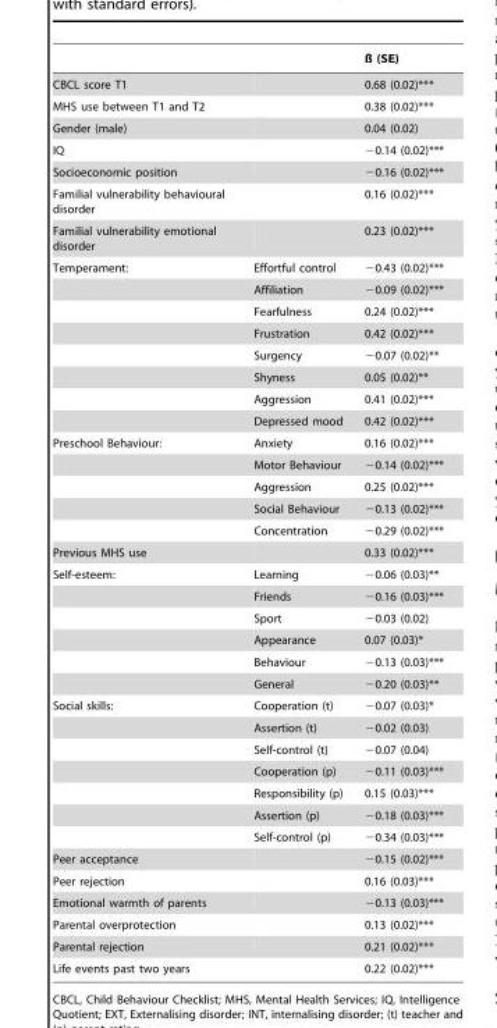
<table><thead><tr><td></td><td></td><td>ß (SE)</td></tr></thead><tbody><tr><td>CBCL score T1</td><td></td><td>0.68 (0.02)***</td></tr><tr><td>MHS use between T1 and T2</td><td></td><td>0.38 (0.02)***</td></tr><tr><td>Gender (male)</td><td></td><td>0.04 (0.02)</td></tr><tr><td>IQ</td><td></td><td>−0.14 (0.02)***</td></tr><tr><td>Socioeconomic position</td><td></td><td>−0.16 (0.02)***</td></tr><tr><td>Familial vulnerability behavioural disorder</td><td></td><td>0.16 (0.02)***</td></tr><tr><td>Familial vulnerability emotional disorder</td><td></td><td>0.23 (0.02)***</td></tr><tr><td rowspan="8">Temperament:</td><td>Effortful control</td><td>−0.43 (0.02)***</td></tr><tr><td>Affiliation</td><td>−0.09 (0.02)***</td></tr><tr><td>Fearfulness</td><td>0.24 (0.02)***</td></tr><tr><td>Frustration</td><td>0.42 (0.02)***</td></tr><tr><td>Surgency</td><td>−0.07 (0.02)**</td></tr><tr><td>Shyness</td><td>0.05 (0.02)**</td></tr><tr><td>Aggression</td><td>0.41 (0.02)***</td></tr><tr><td>Depressed mood</td><td>0.42 (0.02)***</td></tr><tr><td rowspan="5">Preschool Behaviour:</td><td>Anxiety</td><td>0.16 (0.02)***</td></tr><tr><td>Motor Behaviour</td><td>−0.14 (0.02)***</td></tr><tr><td>Aggression</td><td>0.25 (0.02)***</td></tr><tr><td>Social Behaviour</td><td>−0.13 (0.02)***</td></tr><tr><td>Concentration</td><td>−0.29 (0.02)***</td></tr><tr><td>Previous MHS use</td><td></td><td>0.33 (0.02)***</td></tr><tr><td rowspan="6">Self-esteem:</td><td>Learning</td><td>−0.06 (0.03)**</td></tr><tr><td>Friends</td><td>−0.16 (0.03)***</td></tr><tr><td>Sport</td><td>−0.03 (0.02)</td></tr><tr><td>Appearance</td><td>0.07 (0.03)*</td></tr><tr><td>Behaviour</td><td>−0.13 (0.03)***</td></tr><tr><td>General</td><td>−0.20 (0.03)**</td></tr><tr><td rowspan="7">Social skills:</td><td>Cooperation (t)</td><td>−0.07 (0.03)*</td></tr><tr><td>Assertion (t)</td><td>−0.02 (0.03)</td></tr><tr><td>Self-control (t)</td><td>−0.07 (0.04)</td></tr><tr><td>Cooperation (p)</td><td>−0.11 (0.03)***</td></tr><tr><td>Responsibility (p)</td><td>0.15 (0.03)***</td></tr><tr><td>Assertion (p)</td><td>−0.18 (0.03)***</td></tr><tr><td>Self-control (p)</td><td>−0.34 (0.03)***</td></tr><tr><td>Peer acceptance</td><td></td><td>−0.15 (0.02)***</td></tr><tr><td>Peer rejection</td><td></td><td>0.16 (0.03)***</td></tr><tr><td>Emotional warmth of parents</td><td></td><td>−0.13 (0.03)***</td></tr><tr><td>Parental overprotection</td><td></td><td>0.13 (0.02)***</td></tr><tr><td>Parental rejection</td><td></td><td>0.21 (0.02)***</td></tr><tr><td>Life events past two years</td><td></td><td>0.22 (0.02)***</td></tr></tbody></table>